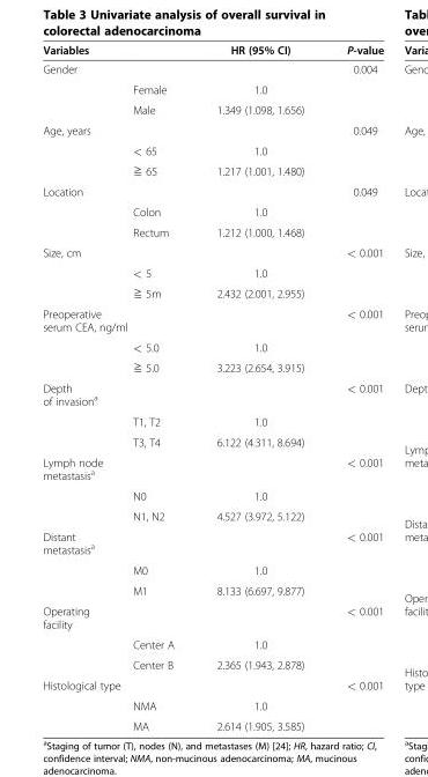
<table><thead><tr><td>Variables</td><td></td><td>HR (95% CI)</td><td>P-value</td></tr></thead><tbody><tr><td rowspan="3">Gender</td><td></td><td></td><td>0.004</td></tr><tr><td>Female</td><td>1.0</td><td></td></tr><tr><td>Male</td><td>1.349 (1.098, 1.656)</td><td></td></tr><tr><td rowspan="3">Age, years</td><td></td><td></td><td>0.049</td></tr><tr><td>&lt; 65</td><td>1.0</td><td></td></tr><tr><td>≧ 65</td><td>1.217 (1.001, 1.480)</td><td></td></tr><tr><td rowspan="3">Location</td><td></td><td></td><td>0.049</td></tr><tr><td>Colon</td><td>1.0</td><td></td></tr><tr><td>Rectum</td><td>1.212 (1.000, 1.468)</td><td></td></tr><tr><td rowspan="3">Size, cm</td><td></td><td></td><td>&lt; 0.001</td></tr><tr><td>&lt; 5</td><td>1.0</td><td></td></tr><tr><td>≧ 5m</td><td>2.432 (2.001, 2.955)</td><td></td></tr><tr><td colspan="2">Preoperative serum CEA, ng/ml</td><td></td><td>&lt; 0.001</td></tr><tr><td></td><td>&lt; 5.0</td><td>1.0</td><td></td></tr><tr><td></td><td>≧ 5.0</td><td>3.223 (2.654, 3.915)</td><td></td></tr><tr><td colspan="2">Depth of invasion<sup>a</sup></td><td></td><td>&lt; 0.001</td></tr><tr><td></td><td>T1, T2</td><td>1.0</td><td></td></tr><tr><td></td><td>T3, T4</td><td>6.122 (4.311, 8.694)</td><td></td></tr><tr><td colspan="2">Lymph node metastasis<sup>a</sup></td><td></td><td>&lt; 0.001</td></tr><tr><td></td><td>N0</td><td>1.0</td><td></td></tr><tr><td></td><td>N1, N2</td><td>4.527 (3.972, 5.122)</td><td></td></tr><tr><td colspan="2">Distant metastasis<sup>a</sup></td><td></td><td>&lt; 0.001</td></tr><tr><td></td><td>M0</td><td>1.0</td><td></td></tr><tr><td></td><td>M1</td><td>8.133 (6.697, 9.877)</td><td></td></tr><tr><td colspan="2">Operating facility</td><td></td><td>&lt; 0.001</td></tr><tr><td></td><td>Center A</td><td>1.0</td><td></td></tr><tr><td></td><td>Center B</td><td>2.365 (1.943, 2.878)</td><td></td></tr><tr><td colspan="2">Histological type</td><td></td><td>&lt; 0.001</td></tr><tr><td></td><td>NMA</td><td>1.0</td><td></td></tr><tr><td></td><td>MA</td><td>2.614 (1.905, 3.585)</td><td></td></tr></tbody></table>